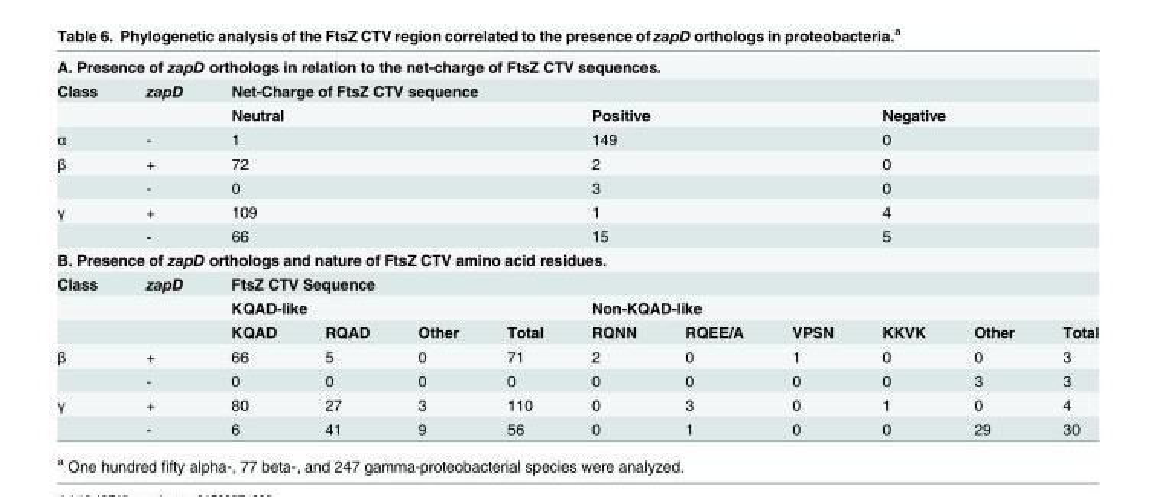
<table><tbody><tr><td colspan="12">A. Presence of zapD orthologs in relation to the net-charge of FtsZ CTV sequences.</td></tr><tr><td rowspan="2">Class</td><td>zapD</td><td colspan="10">Net-Charge of FtsZ CTV sequence</td></tr><tr><td></td><td colspan="4">Neutral</td><td colspan="3">Positive</td><td colspan="3">Negative</td></tr><tr><td>α</td><td>-</td><td colspan="4">1</td><td colspan="3">149</td><td colspan="3">0</td></tr><tr><td rowspan="2">β</td><td>+</td><td colspan="4">72</td><td colspan="3">2</td><td colspan="3">0</td></tr><tr><td>-</td><td colspan="4">0</td><td colspan="3">3</td><td colspan="3">0</td></tr><tr><td rowspan="2">γ</td><td>+</td><td colspan="4">109</td><td colspan="3">1</td><td colspan="3">4</td></tr><tr><td>-</td><td colspan="4">66</td><td colspan="3">15</td><td colspan="3">5</td></tr><tr><td colspan="12">B. Presence of zapD orthologs and nature of FtsZ CTV amino acid residues.</td></tr><tr><td rowspan="3">Class</td><td>zapD</td><td colspan="10">FtsZ CTV Sequence</td></tr><tr><td></td><td colspan="4">KQAD-like</td><td colspan="6">Non-KQAD-like</td></tr><tr><td></td><td>KQAD</td><td>RQAD</td><td>Other</td><td>Total</td><td>RQNN</td><td>RQEE/A</td><td>VPSN</td><td>KKVK</td><td>Other</td><td>Total</td></tr><tr><td rowspan="2">β</td><td>+</td><td>66</td><td>5</td><td>0</td><td>71</td><td>2</td><td>0</td><td>1</td><td>0</td><td>0</td><td>3</td></tr><tr><td>-</td><td>0</td><td>0</td><td>0</td><td>0</td><td>0</td><td>0</td><td>0</td><td>0</td><td>3</td><td>3</td></tr><tr><td rowspan="2">γ</td><td>+</td><td>80</td><td>27</td><td>3</td><td>110</td><td>0</td><td>3</td><td>0</td><td>1</td><td>0</td><td>4</td></tr><tr><td>-</td><td>6</td><td>41</td><td>9</td><td>56</td><td>0</td><td>1</td><td>0</td><td>0</td><td>29</td><td>30</td></tr></tbody></table>